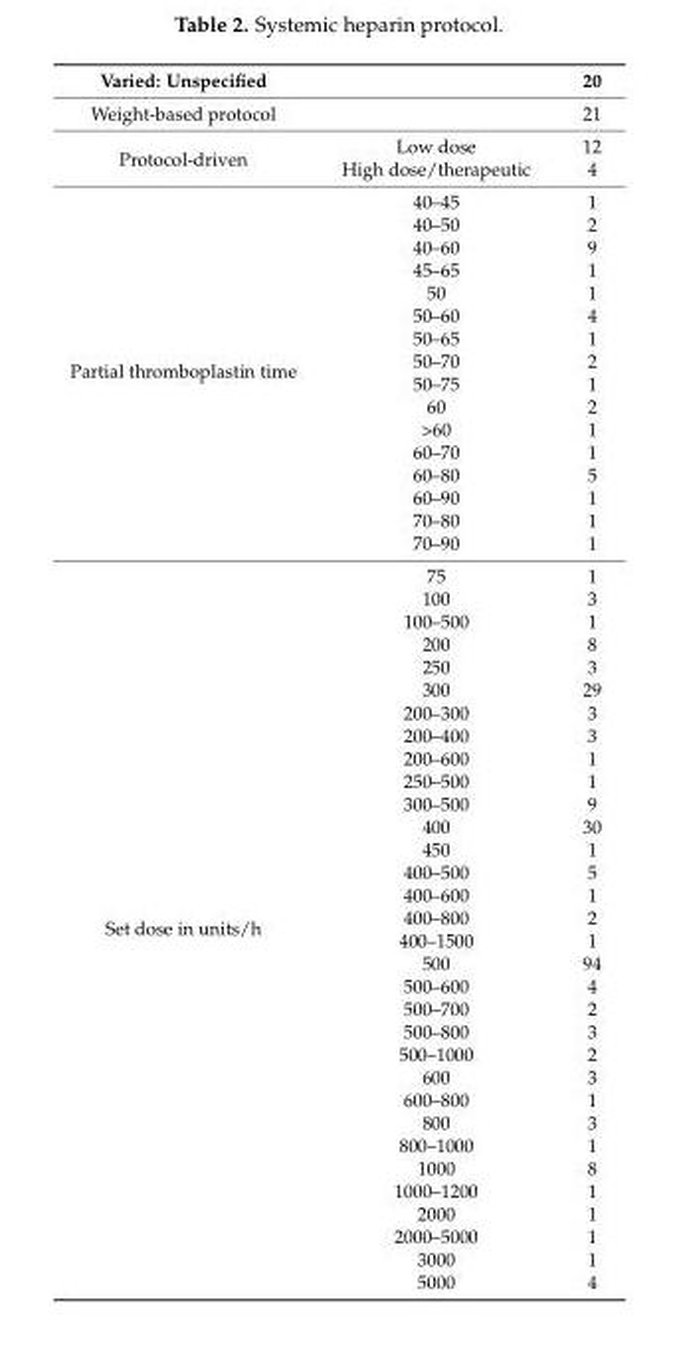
<table><thead><tr><td>Varied: Unspecified</td><td></td><td>20</td></tr></thead><tbody><tr><td>Weight-based protocol</td><td></td><td>21</td></tr><tr><td rowspan="2">Protocol-driven</td><td>Low dose</td><td>12</td></tr><tr><td>High dose/therapeutic</td><td>4</td></tr><tr><td rowspan="16">Partial thromboplastin time</td><td>40–45</td><td>1</td></tr><tr><td>40–50</td><td>2</td></tr><tr><td>40–60</td><td>9</td></tr><tr><td>45–65</td><td>1</td></tr><tr><td>50</td><td>1</td></tr><tr><td>50–60</td><td>4</td></tr><tr><td>50–65</td><td>1</td></tr><tr><td>50–70</td><td>2</td></tr><tr><td>50–75</td><td>1</td></tr><tr><td>60</td><td>2</td></tr><tr><td>&gt;60</td><td>1</td></tr><tr><td>60–70</td><td>1</td></tr><tr><td>60–80</td><td>5</td></tr><tr><td>60–90</td><td>1</td></tr><tr><td>70–80</td><td>1</td></tr><tr><td>70–90</td><td>1</td></tr><tr><td rowspan="32">Set dose in units/h</td><td>75</td><td>1</td></tr><tr><td>100</td><td>3</td></tr><tr><td>100–500</td><td>1</td></tr><tr><td>200</td><td>8</td></tr><tr><td>250</td><td>3</td></tr><tr><td>300</td><td>29</td></tr><tr><td>200–300</td><td>3</td></tr><tr><td>200–400</td><td>3</td></tr><tr><td>200–600</td><td>1</td></tr><tr><td>250–500</td><td>1</td></tr><tr><td>300–500</td><td>9</td></tr><tr><td>400</td><td>30</td></tr><tr><td>450</td><td>1</td></tr><tr><td>400–500</td><td>5</td></tr><tr><td>400–600</td><td>1</td></tr><tr><td>400–800</td><td>2</td></tr><tr><td>400–1500</td><td>1</td></tr><tr><td>500</td><td>94</td></tr><tr><td>500–600</td><td>4</td></tr><tr><td>500–700</td><td>2</td></tr><tr><td>500–800</td><td>3</td></tr><tr><td>500–1000</td><td>2</td></tr><tr><td>600</td><td>3</td></tr><tr><td>600–800</td><td>1</td></tr><tr><td>800</td><td>3</td></tr><tr><td>800–1000</td><td>1</td></tr><tr><td>1000</td><td>8</td></tr><tr><td>1000–1200</td><td>1</td></tr><tr><td>2000</td><td>1</td></tr><tr><td>2000–5000</td><td>1</td></tr><tr><td>3000</td><td>1</td></tr><tr><td>5000</td><td>4</td></tr></tbody></table>